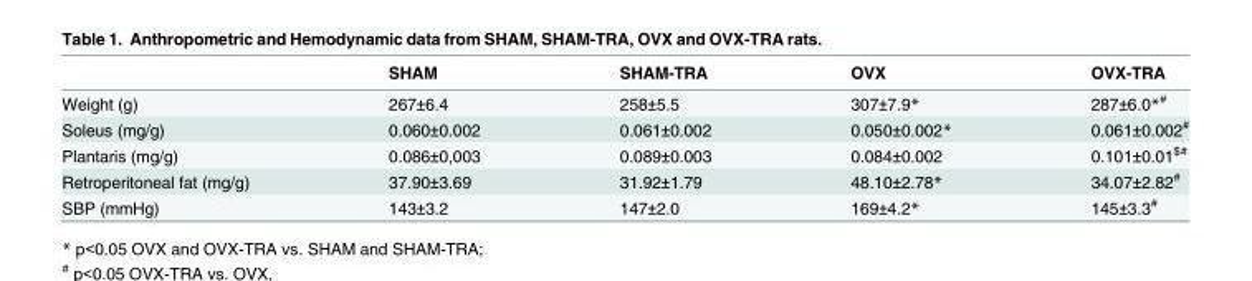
<table><thead><tr><td></td><td>SHAM</td><td>SHAM-TRA</td><td>OVX</td><td>OVX-TRA</td></tr></thead><tbody><tr><td>Weight (g)</td><td>267±6.4</td><td>258±5.5</td><td>307±7.9*</td><td>287±6.0*<sup>#</sup></td></tr><tr><td>Soleus (mg/g)</td><td>0.060±0.002</td><td>0.061±0.002</td><td>0.050±0.002*</td><td>0.061±0.002<sup>#</sup></td></tr><tr><td>Plantaris (mg/g)</td><td>0.086±0,003</td><td>0.089±0.003</td><td>0.084±0.002</td><td>0.101±0.01<sup>$#</sup></td></tr><tr><td>Retroperitoneal fat (mg/g)</td><td>37.90±3.69</td><td>31.92±1.79</td><td>48.10±2.78*</td><td>34.07±2.82<sup>#</sup></td></tr><tr><td>SBP (mmHg)</td><td>143±3.2</td><td>147±2.0</td><td>169±4.2*</td><td>145±3.3<sup>#</sup></td></tr></tbody></table>